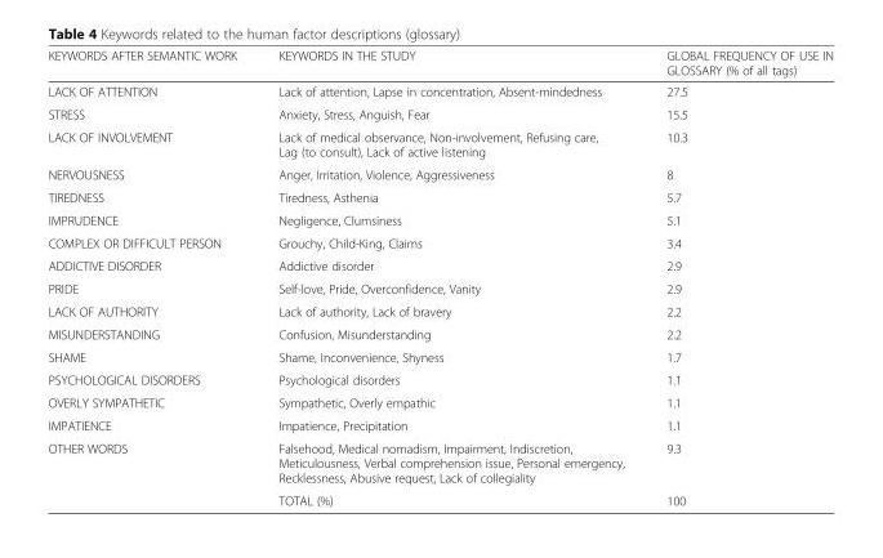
<table><thead><tr><td>KEYWORDS AFTER SEMANTIC WORK</td><td>KEYWORDS IN THE STUDY</td><td>GLOBAL FREQUENCY OF USE IN GLOSSARY (% of all tags)</td></tr></thead><tbody><tr><td>LACK OF ATTENTION</td><td>Lack of attention, Lapse in concentration, Absent-mindedness</td><td>27.5</td></tr><tr><td>STRESS</td><td>Anxiety, Stress, Anguish, Fear</td><td>15.5</td></tr><tr><td>LACK OF INVOLVEMENT</td><td>Lack of medical observance, Non-involvement, Refusing care, Lag (to consult), Lack of active listening</td><td>10.3</td></tr><tr><td>NERVOUSNESS</td><td>Anger, Irritation, Violence, Aggressiveness</td><td>8</td></tr><tr><td>TIREDNESS</td><td>Tiredness, Asthenia</td><td>5.7</td></tr><tr><td>IMPRUDENCE</td><td>Negligence, Clumsiness</td><td>5.1</td></tr><tr><td>COMPLEX OR DIFFICULT PERSON</td><td>Grouchy, Child-King, Claims</td><td>3.4</td></tr><tr><td>ADDICTIVE DISORDER</td><td>Addictive disorder</td><td>2.9</td></tr><tr><td>PRIDE</td><td>Self-love, Pride, Overconfidence, Vanity</td><td>2.9</td></tr><tr><td>LACK OF AUTHORITY</td><td>Lack of authority, Lack of bravery</td><td>2.2</td></tr><tr><td>MISUNDERSTANDING</td><td>Confusion, Misunderstanding</td><td>2.2</td></tr><tr><td>SHAME</td><td>Shame, Inconvenience, Shyness</td><td>1.7</td></tr><tr><td>PSYCHOLOGICAL DISORDERS</td><td>Psychological disorders</td><td>1.1</td></tr><tr><td>OVERLY SYMPATHETIC</td><td>Sympathetic, Overly empathic</td><td>1.1</td></tr><tr><td>IMPATIENCE</td><td>Impatience, Precipitation</td><td>1.1</td></tr><tr><td rowspan="2">OTHER WORDS</td><td>Falsehood, Medical nomadism, Impairment, Indiscretion, Meticulousness, Verbal comprehension issue, Personal emergency, Recklessness, Abusive request, Lack of collegiality</td><td>9.3</td></tr><tr><td>TOTAL (%)</td><td>100</td></tr></tbody></table>